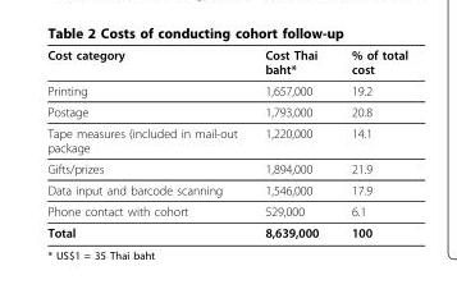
<table><thead><tr><td>Cost category</td><td>Cost Thai baht*</td><td>% of total cost</td></tr></thead><tbody><tr><td>Printing</td><td>1,657,000</td><td>19.2</td></tr><tr><td>Postage</td><td>1,793,000</td><td>20.8</td></tr><tr><td>Tape measures (included in mail-out package</td><td>1,220,000</td><td>14.1</td></tr><tr><td>Gifts/prizes</td><td>1,894,000</td><td>21.9</td></tr><tr><td>Data input and barcode scanning</td><td>1,546,000</td><td>17.9</td></tr><tr><td>Phone contact with cohort</td><td>529,000</td><td>6.1</td></tr><tr><td>Total</td><td>8,639,000</td><td>100</td></tr></tbody></table>